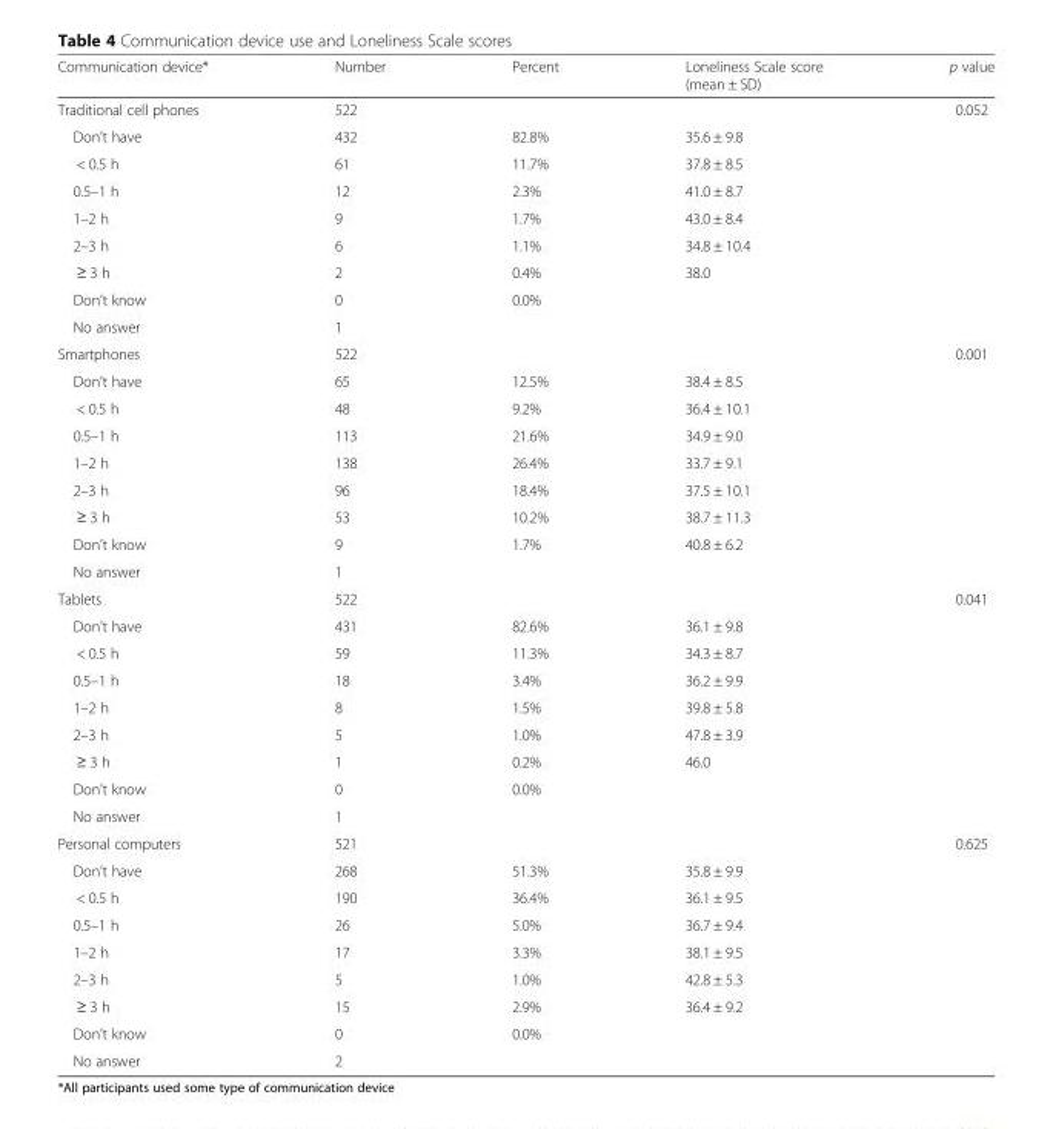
<table><thead><tr><td>Communication device*</td><td>Number</td><td>Percent</td><td>Loneliness Scale score (mean ± SD)</td><td>p value</td></tr></thead><tbody><tr><td>Traditional cell phones</td><td>522</td><td colspan="2"></td><td>0.052</td></tr><tr><td>Don’t have</td><td>432</td><td>82.8%</td><td>35.6 ± 9.8</td><td></td></tr><tr><td>&lt; 0.5 h</td><td>61</td><td>11.7%</td><td>37.8 ± 8.5</td><td></td></tr><tr><td>0.5–1 h</td><td>12</td><td>2.3%</td><td>41.0 ± 8.7</td><td></td></tr><tr><td>1–2 h</td><td>9</td><td>1.7%</td><td>43.0 ± 8.4</td><td></td></tr><tr><td>2–3 h</td><td>6</td><td>1.1%</td><td>34.8 ± 10.4</td><td></td></tr><tr><td>≥ 3 h</td><td>2</td><td>0.4%</td><td>38.0</td><td></td></tr><tr><td>Don’t know</td><td>0</td><td>0.0%</td><td></td><td></td></tr><tr><td>No answer</td><td>1</td><td></td><td></td><td></td></tr><tr><td>Smartphones</td><td>522</td><td colspan="2"></td><td>0.001</td></tr><tr><td>Don’t have</td><td>65</td><td>12.5%</td><td>38.4 ± 8.5</td><td></td></tr><tr><td>&lt; 0.5 h</td><td>48</td><td>9.2%</td><td>36.4 ± 10.1</td><td></td></tr><tr><td>0.5–1 h</td><td>113</td><td>21.6%</td><td>34.9 ± 9.0</td><td></td></tr><tr><td>1–2 h</td><td>138</td><td>26.4%</td><td>33.7 ± 9.1</td><td></td></tr><tr><td>2–3 h</td><td>96</td><td>18.4%</td><td>37.5 ± 10.1</td><td></td></tr><tr><td>≥ 3 h</td><td>53</td><td>10.2%</td><td>38.7 ± 11.3</td><td></td></tr><tr><td>Don’t know</td><td>9</td><td>1.7%</td><td>40.8 ± 6.2</td><td></td></tr><tr><td>No answer</td><td>1</td><td></td><td></td><td></td></tr><tr><td>Tablets</td><td>522</td><td colspan="2"></td><td>0.041</td></tr><tr><td>Don’t have</td><td>431</td><td>82.6%</td><td>36.1 ± 9.8</td><td></td></tr><tr><td>&lt; 0.5 h</td><td>59</td><td>11.3%</td><td>34.3 ± 8.7</td><td></td></tr><tr><td>0.5–1 h</td><td>18</td><td>3.4%</td><td>36.2 ± 9.9</td><td></td></tr><tr><td>1–2 h</td><td>8</td><td>1.5%</td><td>39.8 ± 5.8</td><td></td></tr><tr><td>2–3 h</td><td>5</td><td>1.0%</td><td>47.8 ± 3.9</td><td></td></tr><tr><td>≥ 3 h</td><td>1</td><td>0.2%</td><td>46.0</td><td></td></tr><tr><td>Don’t know</td><td>0</td><td>0.0%</td><td></td><td></td></tr><tr><td>No answer</td><td>1</td><td></td><td></td><td></td></tr><tr><td>Personal computers</td><td>521</td><td colspan="2"></td><td>0.625</td></tr><tr><td>Don’t have</td><td>268</td><td>51.3%</td><td>35.8 ± 9.9</td><td></td></tr><tr><td>&lt; 0.5 h</td><td>190</td><td>36.4%</td><td>36.1 ± 9.5</td><td></td></tr><tr><td>0.5–1 h</td><td>26</td><td>5.0%</td><td>36.7 ± 9.4</td><td></td></tr><tr><td>1–2 h</td><td>17</td><td>3.3%</td><td>38.1 ± 9.5</td><td></td></tr><tr><td>2–3 h</td><td>5</td><td>1.0%</td><td>42.8 ± 5.3</td><td></td></tr><tr><td>≥ 3 h</td><td>15</td><td>2.9%</td><td>36.4 ± 9.2</td><td></td></tr><tr><td>Don’t know</td><td>0</td><td>0.0%</td><td></td><td></td></tr><tr><td>No answer</td><td>2</td><td></td><td></td><td></td></tr></tbody></table>